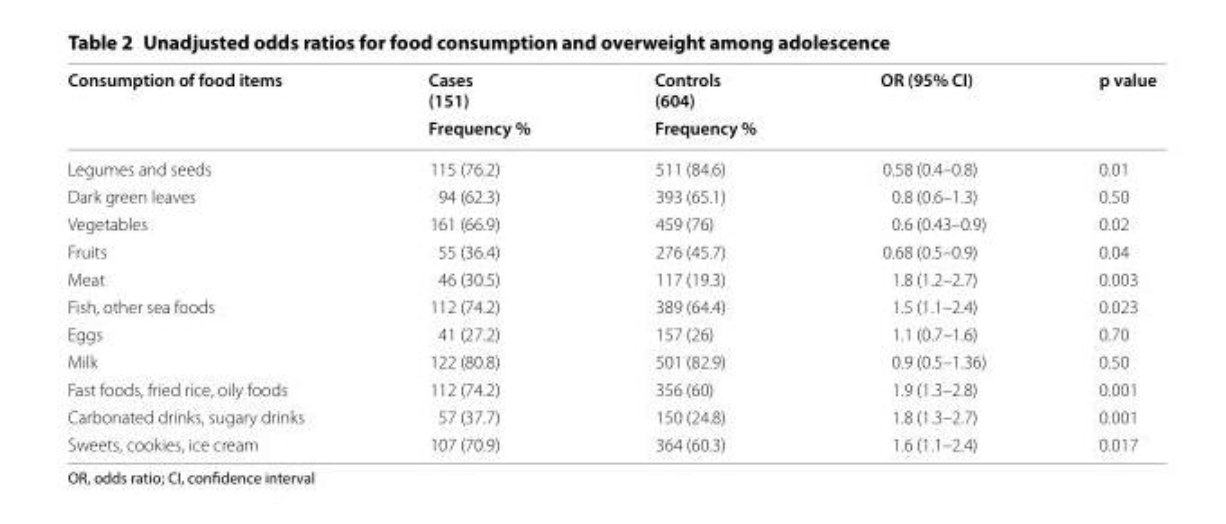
<table><thead><tr><td rowspan="2">Consumption of food items</td><td rowspan="2">Cases (151) Frequency %</td><td rowspan="2">Controls (604) Frequency %</td><td rowspan="2">OR (95% CI)</td><td rowspan="2">p value</td></tr><tr></tr></thead><tbody><tr><td>Legumes and seeds</td><td>115 (76.2)</td><td>511 (84.6)</td><td>0.58 (0.4–0.8)</td><td>0.01</td></tr><tr><td>Dark green leaves</td><td>94 (62.3)</td><td>393 (65.1)</td><td>0.8 (0.6–1.3)</td><td>0.50</td></tr><tr><td>Vegetables</td><td>161 (66.9)</td><td>459 (76)</td><td>0.6 (0.43–0.9)</td><td>0.02</td></tr><tr><td>Fruits</td><td>55 (36.4)</td><td>276 (45.7)</td><td>0.68 (0.5–0.9)</td><td>0.04</td></tr><tr><td>Meat</td><td>46 (30.5)</td><td>117 (19.3)</td><td>1.8 (1.2–2.7)</td><td>0.003</td></tr><tr><td>Fish, other sea foods</td><td>112 (74.2)</td><td>389 (64.4)</td><td>1.5 (1.1–2.4)</td><td>0.023</td></tr><tr><td>Eggs</td><td>41 (27.2)</td><td>157 (26)</td><td>1.1 (0.7–1.6)</td><td>0.70</td></tr><tr><td>Milk</td><td>122 (80.8)</td><td>501 (82.9)</td><td>0.9 (0.5–1.36)</td><td>0.50</td></tr><tr><td>Fast foods, fried rice, oily foods</td><td>112 (74.2)</td><td>356 (60)</td><td>1.9 (1.3–2.8)</td><td>0.001</td></tr><tr><td>Carbonated drinks, sugary drinks</td><td>57 (37.7)</td><td>150 (24.8)</td><td>1.8 (1.3–2.7)</td><td>0.001</td></tr><tr><td>Sweets, cookies, ice cream</td><td>107 (70.9)</td><td>364 (60.3)</td><td>1.6 (1.1–2.4)</td><td>0.017</td></tr></tbody></table>